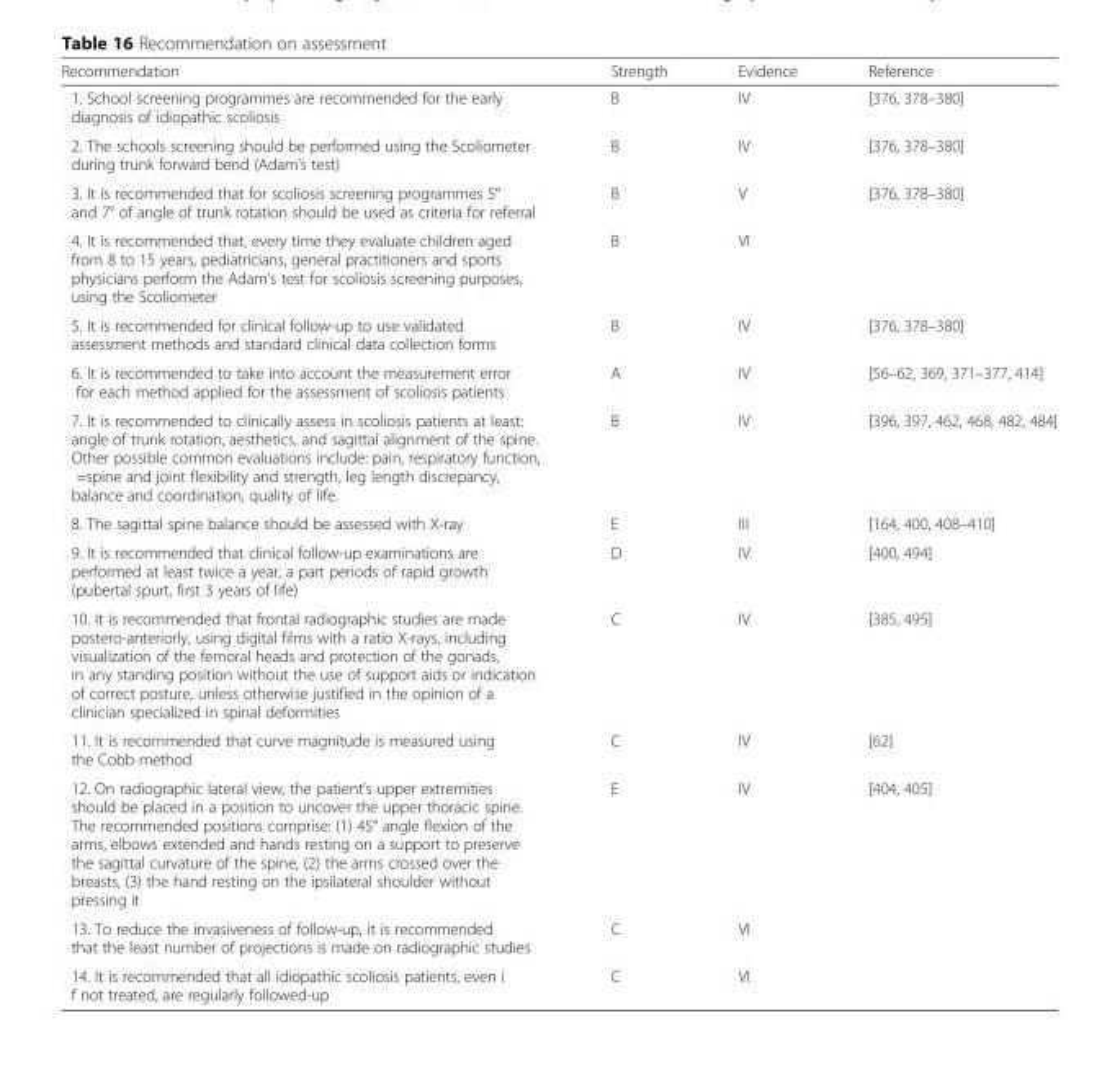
<table><thead><tr><td>Recommendation</td><td>Strength</td><td>Evidence</td><td>Reference</td></tr></thead><tbody><tr><td>1. School screening programmes are recommended for the early diagnosis of idiopathic scoliosis</td><td>B</td><td>IV</td><td>[376, 378–380]</td></tr><tr><td>2. The schools screening should be performed using the Scoliometer during trunk forward bend (Adam’s test)</td><td>B</td><td>IV</td><td>[376, 378–380]</td></tr><tr><td>3. It is recommended that for scoliosis screening programmes 5° and 7° of angle of trunk rotation should be used as criteria for referral</td><td>B</td><td>V</td><td>[376, 378–380]</td></tr><tr><td>4. It is recommended that, every time they evaluate children aged from 8 to 15 years, pediatricians, general practitioners and sports physicians perform the Adam’s test for scoliosis screening purposes, using the Scoliometer</td><td>B</td><td>VI</td><td></td></tr><tr><td>5. It is recommended for clinical follow-up to use validated assessment methods and standard clinical data collection forms</td><td>B</td><td>IV</td><td>[376, 378–380]</td></tr><tr><td>6. It is recommended to take into account the measurement error for each method applied for the assessment of scoliosis patients</td><td>A</td><td>IV</td><td>[56–62, 369, 371–377, 414]</td></tr><tr><td>7. It is recommended to clinically assess in scoliosis patients at least: angle of trunk rotation, aesthetics, and sagittal alignment of the spine. Other possible common evaluations include: pain, respiratory function, =spine and joint flexibility and strength, leg length discrepancy, balance and coordination, quality of life.</td><td>B</td><td>IV</td><td>[396, 397, 462, 468, 482, 484]</td></tr><tr><td>8. The sagittal spine balance should be assessed with X-ray</td><td>E</td><td>III</td><td>[164, 400, 408–410]</td></tr><tr><td>9. It is recommended that clinical follow-up examinations are performed at least twice a year, a part periods of rapid growth (pubertal spurt, first 3 years of life)</td><td>D</td><td>IV</td><td>[400, 494]</td></tr><tr><td>10. It is recommended that frontal radiographic studies are made postero-anteriorly, using digital films with a ratio X-rays, including visualization of the femoral heads and protection of the gonads, in any standing position without the use of support aids or indication of correct posture, unless otherwise justified in the opinion of a clinician specialized in spinal deformities</td><td>C</td><td>IV</td><td>[385, 495]</td></tr><tr><td>11. It is recommended that curve magnitude is measured using the Cobb method</td><td>C</td><td>IV</td><td>[62]</td></tr><tr><td>12. On radiographic lateral view, the patient’s upper extremities should be placed in a position to uncover the upper thoracic spine. The recommended positions comprise: (1) 45° angle flexion of the arms, elbows extended and hands resting on a support to preserve the sagittal curvature of the spine, (2) the arms crossed over the breasts, (3) the hand resting on the ipsilateral shoulder without pressing it</td><td>E</td><td>IV</td><td>[404, 405]</td></tr><tr><td>13. To reduce the invasiveness of follow-up, it is recommended that the least number of projections is made on radiographic studies</td><td>C</td><td>VI</td><td></td></tr><tr><td>14. It is recommended that all idiopathic scoliosis patients, even i f not treated, are regularly followed-up</td><td>C</td><td>VI</td><td></td></tr></tbody></table>